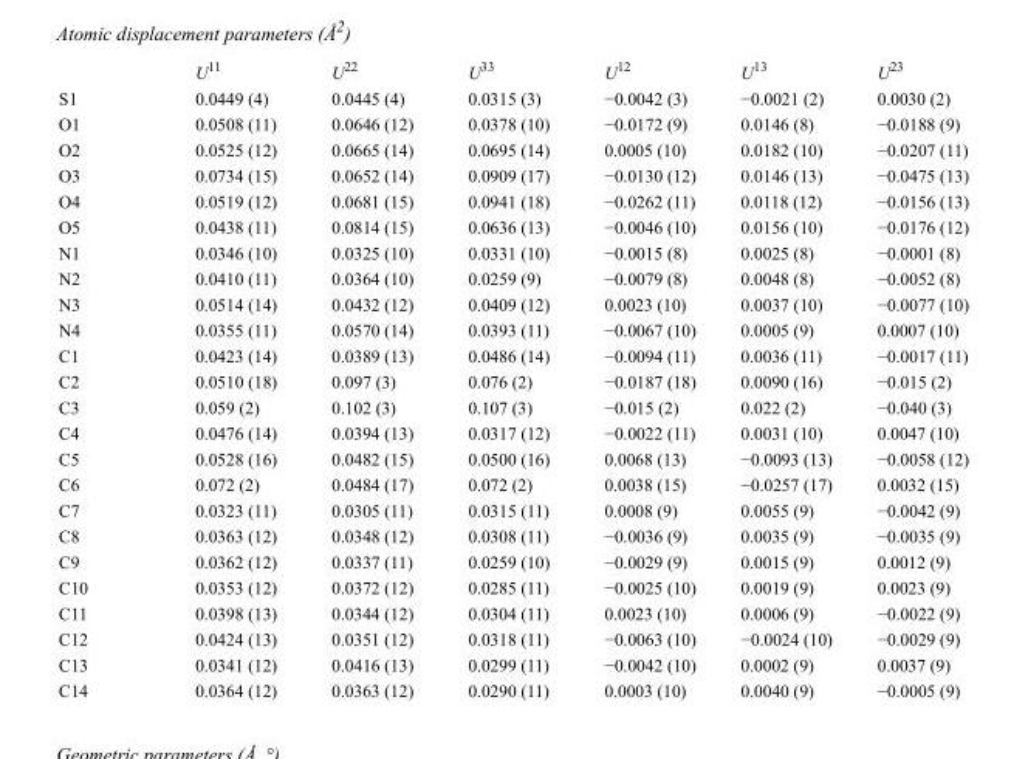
<table><thead><tr><td></td><td>U<sup>11</sup></td><td>U<sup>22</sup></td><td>U<sup>33</sup></td><td>U<sup>12</sup></td><td>U<sup>13</sup></td><td>U<sup>23</sup></td></tr></thead><tbody><tr><td>S1</td><td>0.0449 (4)</td><td>0.0445 (4)</td><td>0.0315 (3)</td><td>−0.0042 (3)</td><td>−0.0021 (2)</td><td>0.0030 (2)</td></tr><tr><td>O1</td><td>0.0508 (11)</td><td>0.0646 (12)</td><td>0.0378 (10)</td><td>−0.0172 (9)</td><td>0.0146 (8)</td><td>−0.0188 (9)</td></tr><tr><td>O2</td><td>0.0525 (12)</td><td>0.0665 (14)</td><td>0.0695 (14)</td><td>0.0005 (10)</td><td>0.0182 (10)</td><td>−0.0207 (11)</td></tr><tr><td>O3</td><td>0.0734 (15)</td><td>0.0652 (14)</td><td>0.0909 (17)</td><td>−0.0130 (12)</td><td>0.0146 (13)</td><td>−0.0475 (13)</td></tr><tr><td>O4</td><td>0.0519 (12)</td><td>0.0681 (15)</td><td>0.0941 (18)</td><td>−0.0262 (11)</td><td>0.0118 (12)</td><td>−0.0156 (13)</td></tr><tr><td>O5</td><td>0.0438 (11)</td><td>0.0814 (15)</td><td>0.0636 (13)</td><td>−0.0046 (10)</td><td>0.0156 (10)</td><td>−0.0176 (12)</td></tr><tr><td>N1</td><td>0.0346 (10)</td><td>0.0325 (10)</td><td>0.0331 (10)</td><td>−0.0015 (8)</td><td>0.0025 (8)</td><td>−0.0001 (8)</td></tr><tr><td>N2</td><td>0.0410 (11)</td><td>0.0364 (10)</td><td>0.0259 (9)</td><td>−0.0079 (8)</td><td>0.0048 (8)</td><td>−0.0052 (8)</td></tr><tr><td>N3</td><td>0.0514 (14)</td><td>0.0432 (12)</td><td>0.0409 (12)</td><td>0.0023 (10)</td><td>0.0037 (10)</td><td>−0.0077 (10)</td></tr><tr><td>N4</td><td>0.0355 (11)</td><td>0.0570 (14)</td><td>0.0393 (11)</td><td>−0.0067 (10)</td><td>0.0005 (9)</td><td>0.0007 (10)</td></tr><tr><td>C1</td><td>0.0423 (14)</td><td>0.0389 (13)</td><td>0.0486 (14)</td><td>−0.0094 (11)</td><td>0.0036 (11)</td><td>−0.0017 (11)</td></tr><tr><td>C2</td><td>0.0510 (18)</td><td>0.097 (3)</td><td>0.076 (2)</td><td>−0.0187 (18)</td><td>0.0090 (16)</td><td>−0.015 (2)</td></tr><tr><td>C3</td><td>0.059 (2)</td><td>0.102 (3)</td><td>0.107 (3)</td><td>−0.015 (2)</td><td>0.022 (2)</td><td>−0.040 (3)</td></tr><tr><td>C4</td><td>0.0476 (14)</td><td>0.0394 (13)</td><td>0.0317 (12)</td><td>−0.0022 (11)</td><td>0.0031 (10)</td><td>0.0047 (10)</td></tr><tr><td>C5</td><td>0.0528 (16)</td><td>0.0482 (15)</td><td>0.0500 (16)</td><td>0.0068 (13)</td><td>−0.0093 (13)</td><td>−0.0058 (12)</td></tr><tr><td>C6</td><td>0.072 (2)</td><td>0.0484 (17)</td><td>0.072 (2)</td><td>0.0038 (15)</td><td>−0.0257 (17)</td><td>0.0032 (15)</td></tr><tr><td>C7</td><td>0.0323 (11)</td><td>0.0305 (11)</td><td>0.0315 (11)</td><td>0.0008 (9)</td><td>0.0055 (9)</td><td>−0.0042 (9)</td></tr><tr><td>C8</td><td>0.0363 (12)</td><td>0.0348 (12)</td><td>0.0308 (11)</td><td>−0.0036 (9)</td><td>0.0035 (9)</td><td>−0.0035 (9)</td></tr><tr><td>C9</td><td>0.0362 (12)</td><td>0.0337 (11)</td><td>0.0259 (10)</td><td>−0.0029 (9)</td><td>0.0015 (9)</td><td>0.0012 (9)</td></tr><tr><td>C10</td><td>0.0353 (12)</td><td>0.0372 (12)</td><td>0.0285 (11)</td><td>−0.0025 (10)</td><td>0.0019 (9)</td><td>0.0023 (9)</td></tr><tr><td>C11</td><td>0.0398 (13)</td><td>0.0344 (12)</td><td>0.0304 (11)</td><td>0.0023 (10)</td><td>0.0006 (9)</td><td>−0.0022 (9)</td></tr><tr><td>C12</td><td>0.0424 (13)</td><td>0.0351 (12)</td><td>0.0318 (11)</td><td>−0.0063 (10)</td><td>−0.0024 (10)</td><td>−0.0029 (9)</td></tr><tr><td>C13</td><td>0.0341 (12)</td><td>0.0416 (13)</td><td>0.0299 (11)</td><td>−0.0042 (10)</td><td>0.0002 (9)</td><td>0.0037 (9)</td></tr><tr><td>C14</td><td>0.0364 (12)</td><td>0.0363 (12)</td><td>0.0290 (11)</td><td>0.0003 (10)</td><td>0.0040 (9)</td><td>−0.0005 (9)</td></tr></tbody></table>